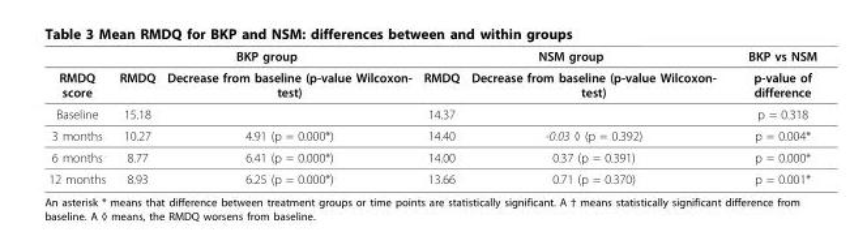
<table><thead><tr><td rowspan="2">RMDQ score</td><td colspan="2">BKP group</td><td colspan="2">NSM group</td><td rowspan="2">BKP vs NSM p-value of difference</td></tr><tr><td>RMDQ</td><td>Decrease from baseline (p-value Wilcoxon- test)</td><td>RMDQ</td><td>Decrease from baseline (p-value Wilcoxon- test)</td></tr></thead><tbody><tr><td>Baseline</td><td>15.18</td><td></td><td>14.37</td><td></td><td>p = 0.318</td></tr><tr><td>3 months</td><td>10.27</td><td>4.91 (p = 0.000*)</td><td>14.40</td><td>-0.03 ◊ (p = 0.392)</td><td>p = 0.004*</td></tr><tr><td>6 months</td><td>8.77</td><td>6.41 (p = 0.000*)</td><td>14.00</td><td>0.37 (p = 0.391)</td><td>p = 0.000*</td></tr><tr><td>12 months</td><td>8.93</td><td>6.25 (p = 0.000*)</td><td>13.66</td><td>0.71 (p = 0.370)</td><td>p = 0.001*</td></tr></tbody></table>